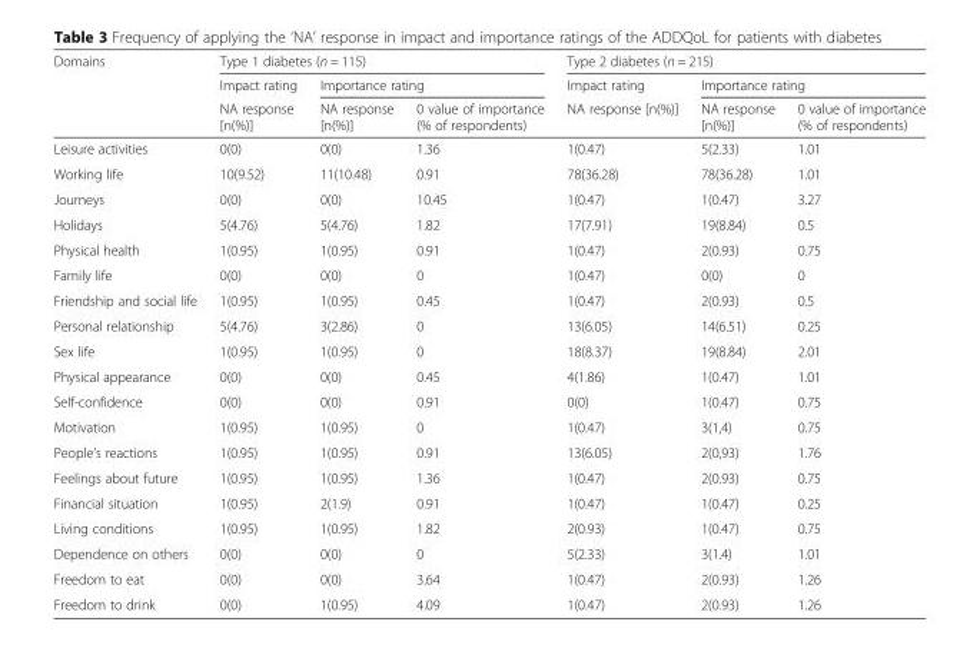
<table><thead><tr><td rowspan="3">Domains</td><td colspan="3">Type 1 diabetes (n = 115)</td><td colspan="3">Type 2 diabetes (n = 215)</td></tr><tr><td rowspan="2">Impact rating NA response [n(%)]</td><td colspan="2">Importance rating</td><td rowspan="2">Impact rating NA response [n(%)]</td><td colspan="2">Importance rating</td></tr><tr><td>NA response [n(%)]</td><td>0 value of importance (% of respondents)</td><td>NA response [n(%)]</td><td>0 value of importance (% of respondents)</td></tr></thead><tbody><tr><td>Leisure activities</td><td>0(0)</td><td>0(0)</td><td>1.36</td><td>1(0.47)</td><td>5(2.33)</td><td>1.01</td></tr><tr><td>Working life</td><td>10(9.52)</td><td>11(10.48)</td><td>0.91</td><td>78(36.28)</td><td>78(36.28)</td><td>1.01</td></tr><tr><td>Journeys</td><td>0(0)</td><td>0(0)</td><td>10.45</td><td>1(0.47)</td><td>1(0.47)</td><td>3.27</td></tr><tr><td>Holidays</td><td>5(4.76)</td><td>5(4.76)</td><td>1.82</td><td>17(7.91)</td><td>19(8.84)</td><td>0.5</td></tr><tr><td>Physical health</td><td>1(0.95)</td><td>1(0.95)</td><td>0.91</td><td>1(0.47)</td><td>2(0.93)</td><td>0.75</td></tr><tr><td>Family life</td><td>0(0)</td><td>0(0)</td><td>0</td><td>1(0.47)</td><td>0(0)</td><td>0</td></tr><tr><td>Friendship and social life</td><td>1(0.95)</td><td>1(0.95)</td><td>0.45</td><td>1(0.47)</td><td>2(0.93)</td><td>0.5</td></tr><tr><td>Personal relationship</td><td>5(4.76)</td><td>3(2.86)</td><td>0</td><td>13(6.05)</td><td>14(6.51)</td><td>0.25</td></tr><tr><td>Sex life</td><td>1(0.95)</td><td>1(0.95)</td><td>0</td><td>18(8.37)</td><td>19(8.84)</td><td>2.01</td></tr><tr><td>Physical appearance</td><td>0(0)</td><td>0(0)</td><td>0.45</td><td>4(1.86)</td><td>1(0.47)</td><td>1.01</td></tr><tr><td>Self-confidence</td><td>0(0)</td><td>0(0)</td><td>0.91</td><td>0(0)</td><td>1(0.47)</td><td>0.75</td></tr><tr><td>Motivation</td><td>1(0.95)</td><td>1(0.95)</td><td>0</td><td>1(0.47)</td><td>3(1,4)</td><td>0.75</td></tr><tr><td>People’s reactions</td><td>1(0.95)</td><td>1(0.95)</td><td>0.91</td><td>13(6.05)</td><td>2(0,93)</td><td>1.76</td></tr><tr><td>Feelings about future</td><td>1(0.95)</td><td>1(0.95)</td><td>1.36</td><td>1(0.47)</td><td>2(0.93)</td><td>0.75</td></tr><tr><td>Financial situation</td><td>1(0.95)</td><td>2(1.9)</td><td>0.91</td><td>1(0.47)</td><td>1(0.47)</td><td>0.25</td></tr><tr><td>Living conditions</td><td>1(0.95)</td><td>1(0.95)</td><td>1.82</td><td>2(0.93)</td><td>1(0.47)</td><td>0.75</td></tr><tr><td>Dependence on others</td><td>0(0)</td><td>0(0)</td><td>0</td><td>5(2.33)</td><td>3(1.4)</td><td>1.01</td></tr><tr><td>Freedom to eat</td><td>0(0)</td><td>0(0)</td><td>3.64</td><td>1(0.47)</td><td>2(0.93)</td><td>1.26</td></tr><tr><td>Freedom to drink</td><td>0(0)</td><td>1(0.95)</td><td>4.09</td><td>1(0.47)</td><td>2(0.93)</td><td>1.26</td></tr></tbody></table>